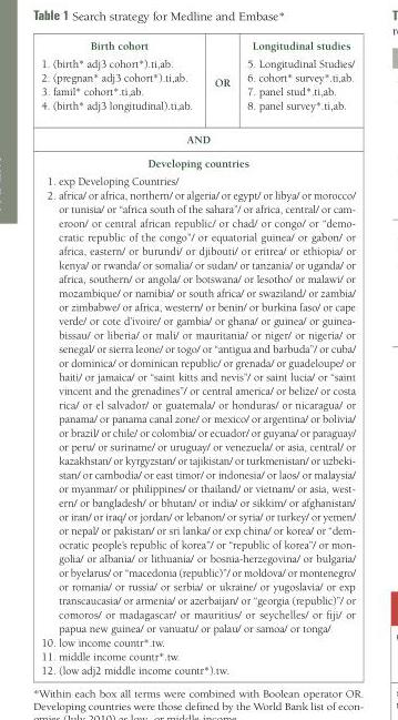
<table><tbody><tr><td>Birth cohort 1. (birth* adj3 cohort*).ti,ab. 2. (pregnan* adj3 cohort*).ti,ab. 3. famil* cohort*.ti,ab. 4. (birth* adj3 longitudinal).ti,ab.</td><td>OR</td><td>Longitudinal studies 5. Longitudinal Studies/ 6. cohort* survey*.ti,ab. 7. panel stud*.ti,ab. 8. panel survey*.ti,ab.</td></tr><tr><td colspan="3">AND</td></tr><tr><td colspan="3">Developing countries 1. exp Developing Countries/ 2. africa/ or africa, northern/ or algeria/ or egypt/ or libya/ or morocco/ or tunisia/ or “africa south of the sahara”/ or africa, central/ or cam- eroon/ or central african republic/ or chad/ or congo/ or “demo- cratic republic of the congo”/ or equatorial guinea/ or gabon/ or africa, eastern/ or burundi/ or djibouti/ or eritrea/ or ethiopia/ or kenya/ or rwanda/ or somalia/ or sudan/ or tanzania/ or uganda/ or africa, southern/ or angola/ or botswana/ or lesotho/ or malawi/ or mozambique/ or namibia/ or south africa/ or swaziland/ or zambia/ or zimbabwe/ or africa, western/ or benin/ or burkina faso/ or cape verde/ or cote d’ivoire/ or gambia/ or ghana/ or guinea/ or guinea- bissau/ or liberia/ or mali/ or mauritania/ or niger/ or nigeria/ or senegal/ or sierra leone/ or togo/ or “antigua and barbuda”/ or cuba/ or dominica/ or dominican republic/ or grenada/ or guadeloupe/ or haiti/ or jamaica/ or “saint kitts and nevis”/ or saint lucia/ or “saint vincent and the grenadines”/ or central america/ or belize/ or costa rica/ or el salvador/ or guatemala/ or honduras/ or nicaragua/ or panama/ or panama canal zone/ or mexico/ or argentina/ or bolivia/ or brazil/ or chile/ or colombia/ or ecuador/ or guyana/ or paraguay/ or peru/ or suriname/ or uruguay/ or venezuela/ or asia, central/ or kazakhstan/ or kyrgyzstan/ or tajikistan/ or turkmenistan/ or uzbeki- stan/ or cambodia/ or east timor/ or indonesia/ or laos/ or malaysia/ or myanmar/ or philippines/ or thailand/ or vietnam/ or asia, west- ern/ or bangladesh/ or bhutan/ or india/ or sikkim/ or afghanistan/ or iran/ or iraq/ or jordan/ or lebanon/ or syria/ or turkey/ or yemen/ or nepal/ or pakistan/ or sri lanka/ or exp china/ or korea/ or “dem- ocratic people’s republic of korea”/ or “republic of korea”/ or mon- golia/ or albania/ or lithuania/ or bosnia-herzegovina/ or bulgaria/ or byelarus/ or “macedonia (republic)”/ or moldova/ or montenegro/ or romania/ or russia/ or serbia/ or ukraine/ or yugoslavia/ or exp transcaucasia/ or armenia/ or azerbaijan/ or “georgia (republic)”/ or comoros/ or madagascar/ or mauritius/ or seychelles/ or fiji/ or papua new guinea/ or vanuatu/ or palau/ or samoa/ or tonga/ 10. low income countr*.tw. 11. middle income countr*.tw. 12. (low adj2 middle income countr*).tw.</td></tr></tbody></table>